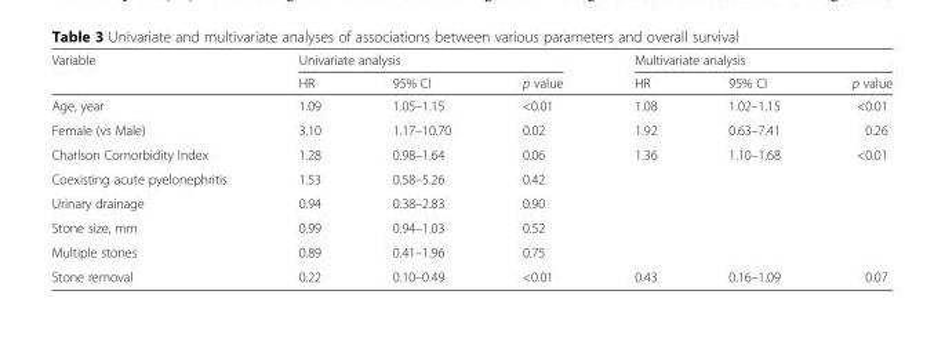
<table><thead><tr><td rowspan="2">Variable</td><td colspan="3">Univariate analysis</td><td colspan="3">Multivariate analysis</td></tr><tr><td>HR</td><td>95% CI</td><td>p value</td><td>HR</td><td>95% CI</td><td>p value</td></tr></thead><tbody><tr><td>Age, year</td><td>1.09</td><td>1.05–1.15</td><td>&lt;0.01</td><td>1.08</td><td>1.02–1.15</td><td>&lt;0.01</td></tr><tr><td>Female (vs Male)</td><td>3.10</td><td>1.17–10.70</td><td>0.02</td><td>1.92</td><td>0.63–7.41</td><td>0.26</td></tr><tr><td>Charlson Comorbidity Index</td><td>1.28</td><td>0.98–1.64</td><td>0.06</td><td>1.36</td><td>1.10–1.68</td><td>&lt;0.01</td></tr><tr><td>Coexisting acute pyelonephritis</td><td>1.53</td><td>0.58–5.26</td><td>0.42</td><td></td><td></td><td></td></tr><tr><td>Urinary drainage</td><td>0.94</td><td>0.38–2.83</td><td>0.90</td><td></td><td></td><td></td></tr><tr><td>Stone size, mm</td><td>0.99</td><td>0.94–1.03</td><td>0.52</td><td></td><td></td><td></td></tr><tr><td>Multiple stones</td><td>0.89</td><td>0.41–1.96</td><td>0.75</td><td></td><td></td><td></td></tr><tr><td>Stone removal</td><td>0.22</td><td>0.10–0.49</td><td>&lt;0.01</td><td>0.43</td><td>0.16–1.09</td><td>0.07</td></tr></tbody></table>